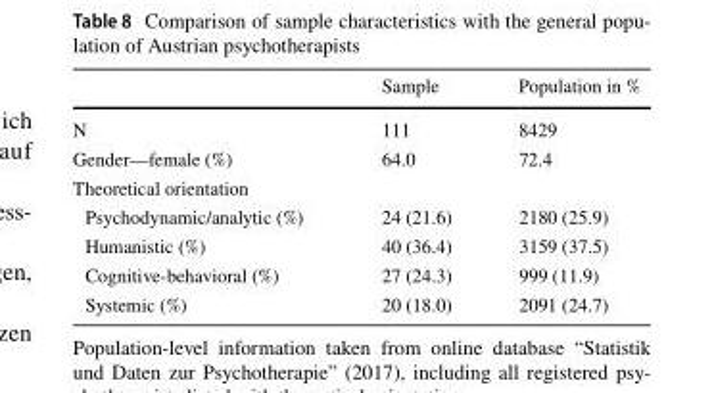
<table><thead><tr><td></td><td>Sample</td><td>Population in %</td></tr></thead><tbody><tr><td>N</td><td>111</td><td>8429</td></tr><tr><td>Gender—female (%)</td><td>64.0</td><td>72.4</td></tr><tr><td colspan="3">Theoretical orientation</td></tr><tr><td>Psychodynamic/analytic (%)</td><td>24 (21.6)</td><td>2180 (25.9)</td></tr><tr><td>Humanistic (%)</td><td>40 (36.4)</td><td>3159 (37.5)</td></tr><tr><td>Cognitive-behavioral (%)</td><td>27 (24.3)</td><td>999 (11.9)</td></tr><tr><td>Systemic (%)</td><td>20 (18.0)</td><td>2091 (24.7)</td></tr></tbody></table>